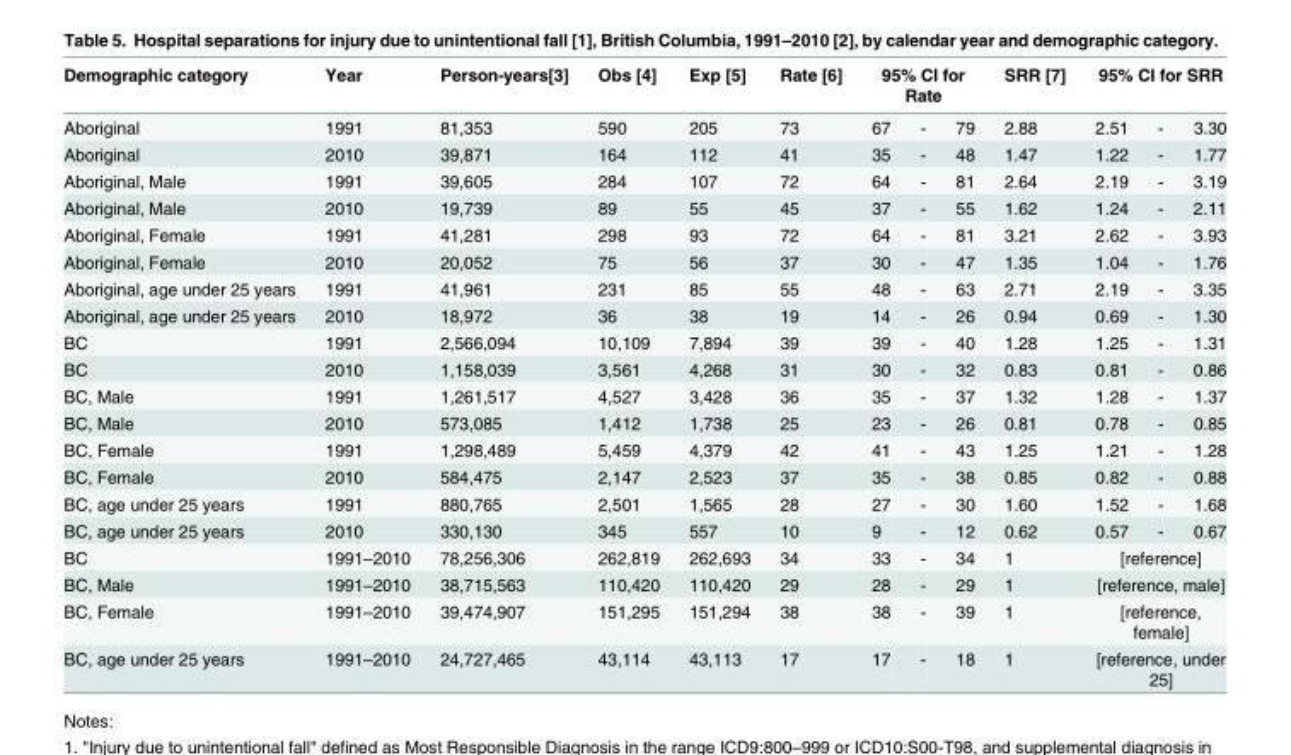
<table><thead><tr><td rowspan="2">Demographic category Aboriginal</td><td rowspan="2">Year 1991</td><td rowspan="2">Person-years[3] 81,353</td><td rowspan="2">Obs [4] 590</td><td rowspan="2">Exp [5] 205</td><td rowspan="2">Rate [6] 73</td><td colspan="3">95% CI for Rate</td><td rowspan="2">SRR [7] 2.88</td><td colspan="3">95% CI for SRR</td></tr><tr><td>67</td><td>-</td><td>79</td><td>2.51</td><td>-</td><td>3.30</td></tr></thead><tbody><tr><td>Aboriginal</td><td>2010</td><td>39,871</td><td>164</td><td>112</td><td>41</td><td>35</td><td>-</td><td>48</td><td>1.47</td><td>1.22</td><td>-</td><td>1.77</td></tr><tr><td>Aboriginal, Male</td><td>1991</td><td>39,605</td><td>284</td><td>107</td><td>72</td><td>64</td><td>-</td><td>81</td><td>2.64</td><td>2.19</td><td>-</td><td>3.19</td></tr><tr><td>Aboriginal, Male</td><td>2010</td><td>19,739</td><td>89</td><td>55</td><td>45</td><td>37</td><td>-</td><td>55</td><td>1.62</td><td>1.24</td><td>-</td><td>2.11</td></tr><tr><td>Aboriginal, Female</td><td>1991</td><td>41,281</td><td>298</td><td>93</td><td>72</td><td>64</td><td>-</td><td>81</td><td>3.21</td><td>2.62</td><td>-</td><td>3.93</td></tr><tr><td>Aboriginal, Female</td><td>2010</td><td>20,052</td><td>75</td><td>56</td><td>37</td><td>30</td><td>-</td><td>47</td><td>1.35</td><td>1.04</td><td>-</td><td>1.76</td></tr><tr><td>Aboriginal, age under 25 years</td><td>1991</td><td>41,961</td><td>231</td><td>85</td><td>55</td><td>48</td><td>-</td><td>63</td><td>2.71</td><td>2.19</td><td>-</td><td>3.35</td></tr><tr><td>Aboriginal, age under 25 years</td><td>2010</td><td>18,972</td><td>36</td><td>38</td><td>19</td><td>14</td><td>-</td><td>26</td><td>0.94</td><td>0.69</td><td>-</td><td>1.30</td></tr><tr><td>BC</td><td>1991</td><td>2,566,094</td><td>10,109</td><td>7,894</td><td>39</td><td>39</td><td>-</td><td>40</td><td>1.28</td><td>1.25</td><td>-</td><td>1.31</td></tr><tr><td>BC</td><td>2010</td><td>1,158,039</td><td>3,561</td><td>4,268</td><td>31</td><td>30</td><td>-</td><td>32</td><td>0.83</td><td>0.81</td><td>-</td><td>0.86</td></tr><tr><td>BC, Male</td><td>1991</td><td>1,261,517</td><td>4,527</td><td>3,428</td><td>36</td><td>35</td><td>-</td><td>37</td><td>1.32</td><td>1.28</td><td>-</td><td>1.37</td></tr><tr><td>BC, Male</td><td>2010</td><td>573,085</td><td>1,412</td><td>1,738</td><td>25</td><td>23</td><td>-</td><td>26</td><td>0.81</td><td>0.78</td><td>-</td><td>0.85</td></tr><tr><td>BC, Female</td><td>1991</td><td>1,298,489</td><td>5,459</td><td>4,379</td><td>42</td><td>41</td><td>-</td><td>43</td><td>1.25</td><td>1.21</td><td>-</td><td>1.28</td></tr><tr><td>BC, Female</td><td>2010</td><td>584,475</td><td>2,147</td><td>2,523</td><td>37</td><td>35</td><td>-</td><td>38</td><td>0.85</td><td>0.82</td><td>-</td><td>0.88</td></tr><tr><td>BC, age under 25 years</td><td>1991</td><td>880,765</td><td>2,501</td><td>1,565</td><td>28</td><td>27</td><td>-</td><td>30</td><td>1.60</td><td>1.52</td><td>-</td><td>1.68</td></tr><tr><td>BC, age under 25 years</td><td>2010</td><td>330,130</td><td>345</td><td>557</td><td>10</td><td>9</td><td>-</td><td>12</td><td>0.62</td><td>0.57</td><td>-</td><td>0.67</td></tr><tr><td>BC</td><td>1991–2010</td><td>78,256,306</td><td>262,819</td><td>262,693</td><td>34</td><td>33</td><td>-</td><td>34</td><td>1</td><td colspan="3">[reference]</td></tr><tr><td>BC, Male</td><td>1991–2010</td><td>38,715,563</td><td>110,420</td><td>110,420</td><td>29</td><td>28</td><td>-</td><td>29</td><td>1</td><td colspan="3">[reference, male]</td></tr><tr><td>BC, Female</td><td>1991–2010</td><td>39,474,907</td><td>151,295</td><td>151,294</td><td>38</td><td>38</td><td>-</td><td>39</td><td>1</td><td colspan="3">[reference, female]</td></tr><tr><td>BC, age under 25 years</td><td>1991–2010</td><td>24,727,465</td><td>43,114</td><td>43,113</td><td>17</td><td>17</td><td>-</td><td>18</td><td>1</td><td colspan="3">[reference, under 25]</td></tr></tbody></table>